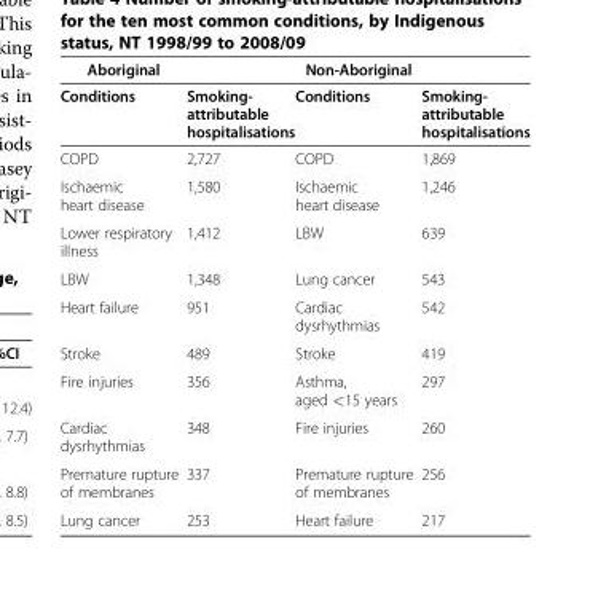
<table><thead><tr><td rowspan="2">Aboriginal Conditions</td><td rowspan="2">Smoking- attributable hospitalisations</td><td rowspan="2">Non-Aboriginal Conditions</td><td rowspan="2">Smoking- attributable hospitalisations</td></tr><tr></tr></thead><tbody><tr><td>COPD</td><td>2,727</td><td>COPD</td><td>1,869</td></tr><tr><td>Ischaemic heart disease</td><td>1,580</td><td>Ischaemic heart disease</td><td>1,246</td></tr><tr><td>Lower respiratory illness</td><td>1,412</td><td>LBW</td><td>639</td></tr><tr><td>LBW</td><td>1,348</td><td>Lung cancer</td><td>543</td></tr><tr><td>Heart failure</td><td>951</td><td>Cardiac dysrhythmias</td><td>542</td></tr><tr><td>Stroke</td><td>489</td><td>Stroke</td><td>419</td></tr><tr><td>Fire injuries</td><td>356</td><td>Asthma, aged &lt;15 years</td><td>297</td></tr><tr><td>Cardiac dysrhythmias</td><td>348</td><td>Fire injuries</td><td>260</td></tr><tr><td>Premature rupture of membranes</td><td>337</td><td>Premature rupture of membranes</td><td>256</td></tr><tr><td>Lung cancer</td><td>253</td><td>Heart failure</td><td>217</td></tr></tbody></table>